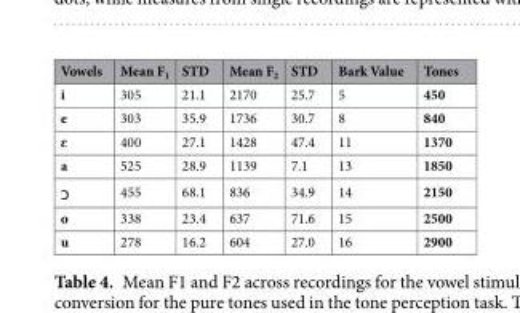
<table><thead><tr><td>Vowels</td><td>Mean F<sub>1</sub></td><td>STD</td><td>Mean F<sub>2</sub></td><td>STD</td><td>Bark Value</td><td>Tones</td></tr></thead><tbody><tr><td>i</td><td>305</td><td>21.1</td><td>2170</td><td>25.7</td><td>5</td><td>450</td></tr><tr><td>e</td><td>303</td><td>35.9</td><td>1736</td><td>30.7</td><td>8</td><td>840</td></tr><tr><td>ɛ</td><td>400</td><td>27.1</td><td>1428</td><td>47.4</td><td>11</td><td>1370</td></tr><tr><td>a</td><td>525</td><td>28.9</td><td>1139</td><td>7.1</td><td>13</td><td>1850</td></tr><tr><td>ɔ</td><td>455</td><td>68.1</td><td>836</td><td>34.9</td><td>14</td><td>2150</td></tr><tr><td>o</td><td>338</td><td>23.4</td><td>637</td><td>71.6</td><td>15</td><td>2500</td></tr><tr><td>u</td><td>278</td><td>16.2</td><td>604</td><td>27.0</td><td>16</td><td>2900</td></tr></tbody></table>